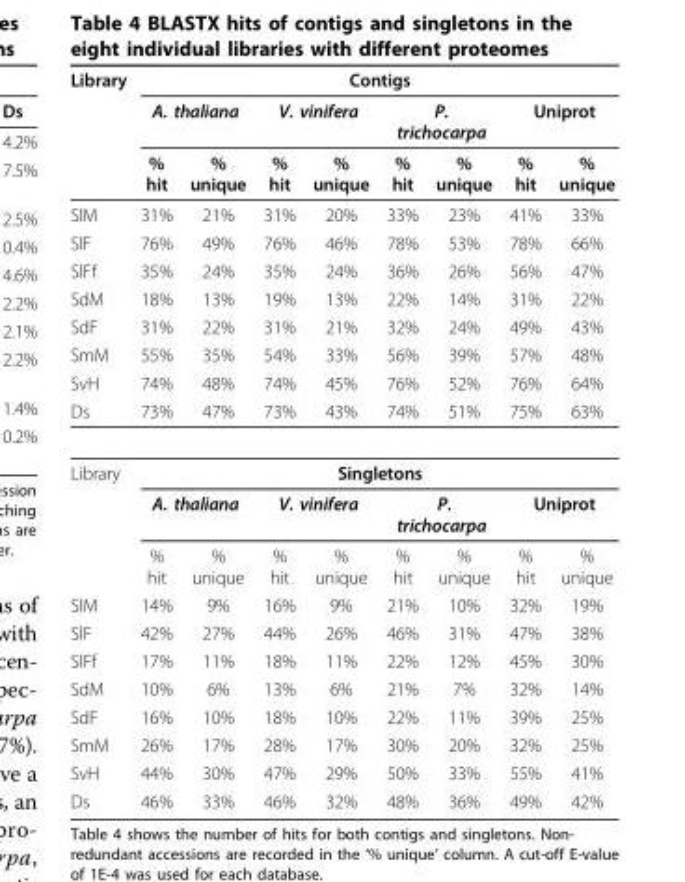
<table><thead><tr><td rowspan="3">Library</td><td colspan="8">Contigs</td></tr><tr><td colspan="2">A. thaliana</td><td colspan="2">V. vinifera</td><td colspan="2">P. trichocarpa</td><td colspan="2">Uniprot</td></tr><tr><td>% hit</td><td>% unique</td><td>% hit</td><td>% unique</td><td>% hit</td><td>% unique</td><td>% hit</td><td>% unique</td></tr></thead><tbody><tr><td>SlM</td><td>31%</td><td>21%</td><td>31%</td><td>20%</td><td>33%</td><td>23%</td><td>41%</td><td>33%</td></tr><tr><td>SlF</td><td>76%</td><td>49%</td><td>76%</td><td>46%</td><td>78%</td><td>53%</td><td>78%</td><td>66%</td></tr><tr><td>SlFf</td><td>35%</td><td>24%</td><td>35%</td><td>24%</td><td>36%</td><td>26%</td><td>56%</td><td>47%</td></tr><tr><td>SdM</td><td>18%</td><td>13%</td><td>19%</td><td>13%</td><td>22%</td><td>14%</td><td>31%</td><td>22%</td></tr><tr><td>SdF</td><td>31%</td><td>22%</td><td>31%</td><td>21%</td><td>32%</td><td>24%</td><td>49%</td><td>43%</td></tr><tr><td>SmM</td><td>55%</td><td>35%</td><td>54%</td><td>33%</td><td>56%</td><td>39%</td><td>57%</td><td>48%</td></tr><tr><td>SvH</td><td>74%</td><td>48%</td><td>74%</td><td>45%</td><td>76%</td><td>52%</td><td>76%</td><td>64%</td></tr><tr><td>Ds</td><td>73%</td><td>47%</td><td>73%</td><td>43%</td><td>74%</td><td>51%</td><td>75%</td><td>63%</td></tr><tr><td rowspan="3">Library</td><td colspan="8">Singletons</td></tr><tr><td colspan="2">A. thaliana</td><td colspan="2">V. vinifera</td><td colspan="2">P. trichocarpa</td><td colspan="2">Uniprot</td></tr><tr><td>% hit</td><td>% unique</td><td>% hit</td><td>% unique</td><td>% hit</td><td>% unique</td><td>% hit</td><td>% unique</td></tr><tr><td>SlM</td><td>14%</td><td>9%</td><td>16%</td><td>9%</td><td>21%</td><td>10%</td><td>32%</td><td>19%</td></tr><tr><td>SlF</td><td>42%</td><td>27%</td><td>44%</td><td>26%</td><td>46%</td><td>31%</td><td>47%</td><td>38%</td></tr><tr><td>SlFf</td><td>17%</td><td>11%</td><td>18%</td><td>11%</td><td>22%</td><td>12%</td><td>45%</td><td>30%</td></tr><tr><td>SdM</td><td>10%</td><td>6%</td><td>13%</td><td>6%</td><td>21%</td><td>7%</td><td>32%</td><td>14%</td></tr><tr><td>SdF</td><td>16%</td><td>10%</td><td>18%</td><td>10%</td><td>22%</td><td>11%</td><td>39%</td><td>25%</td></tr><tr><td>SmM</td><td>26%</td><td>17%</td><td>28%</td><td>17%</td><td>30%</td><td>20%</td><td>32%</td><td>25%</td></tr><tr><td>SvH</td><td>44%</td><td>30%</td><td>47%</td><td>29%</td><td>50%</td><td>33%</td><td>55%</td><td>41%</td></tr><tr><td>Ds</td><td>46%</td><td>33%</td><td>46%</td><td>32%</td><td>48%</td><td>36%</td><td>49%</td><td>42%</td></tr></tbody></table>